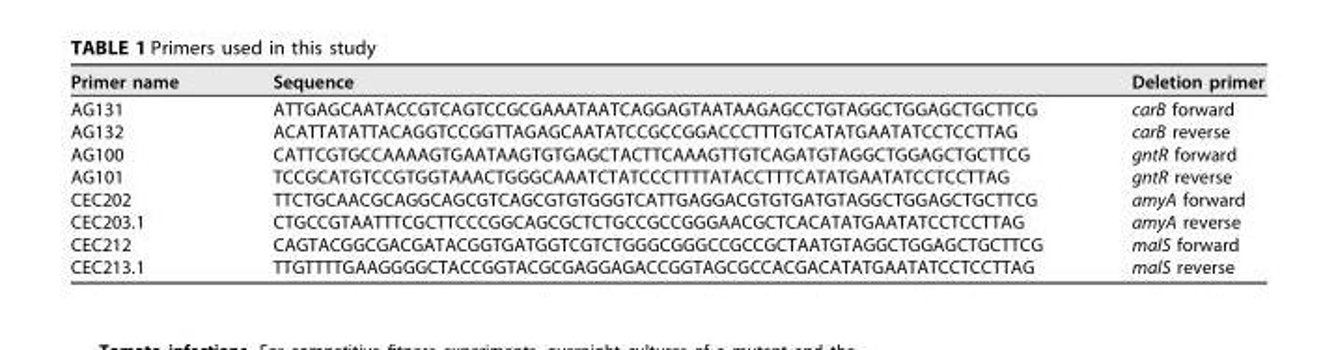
<table><thead><tr><td>Primer name</td><td>Sequence</td><td>Deletion primer</td></tr></thead><tbody><tr><td>AG131</td><td>ATTGAGCAATACCGTCAGTCCGCGAAATAATCAGGAGTAATAAGAGCCTGTAGGCTGGAGCTGCTTCG</td><td>carB forward</td></tr><tr><td>AG132</td><td>ACATTATATTACAGGTCCGGTTAGAGCAATATCCGCCGGACCCTTTGTCATATGAATATCCTCCTTAG</td><td>carB reverse</td></tr><tr><td>AG100</td><td>CATTCGTGCCAAAAGTGAATAAGTGTGAGCTACTTCAAAGTTGTCAGATGTAGGCTGGAGCTGCTTCG</td><td>gntR forward</td></tr><tr><td>AG101</td><td>TCCGCATGTCCGTGGTAAACTGGGCAAATCTATCCCTTTTATACCTTTCATATGAATATCCTCCTTAG</td><td>gntR reverse</td></tr><tr><td>CEC202</td><td>TTCTGCAACGCAGGCAGCGTCAGCGTGTGGGTCATTGAGGACGTGTGATGTAGGCTGGAGCTGCTTCG</td><td>amyA forward</td></tr><tr><td>CEC203.1</td><td>CTGCCGTAATTTCGCTTCCCGGCAGCGCTCTGCCGCCGGGAACGCTCACATATGAATATCCTCCTTAG</td><td>amyA reverse</td></tr><tr><td>CEC212</td><td>CAGTACGGCGACGATACGGTGATGGTCGTCTGGGCGGGCCGCCGCTAATGTAGGCTGGAGCTGCTTCG</td><td>malS forward</td></tr><tr><td>CEC213.1</td><td>TTGTTTTGAAGGGGCTACCGGTACGCGAGGAGACCGGTAGCGCCACGACATATGAATATCCTCCTTAG</td><td>malS reverse</td></tr></tbody></table>